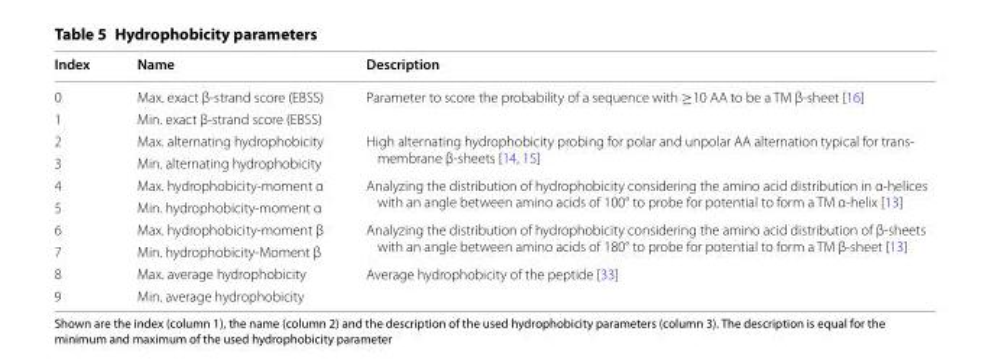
<table><thead><tr><td>Index</td><td>Name</td><td>Description</td></tr></thead><tbody><tr><td>0</td><td>Max. exact β-strand score (EBSS)</td><td rowspan="2">Parameter to score the probability of a sequence with ≥10 AA to be a TM β-sheet [16]</td></tr><tr><td>1</td><td>Min. exact β-strand score (EBSS)</td></tr><tr><td>2</td><td>Max. alternating hydrophobicity</td><td rowspan="2">High alternating hydrophobicity probing for polar and unpolar AA alternation typical for trans- membrane β-sheets [14, 15]</td></tr><tr><td>3</td><td>Min. alternating hydrophobicity</td></tr><tr><td>4</td><td>Max. hydrophobicity-moment α</td><td rowspan="2">Analyzing the distribution of hydrophobicity considering the amino acid distribution in α-helices with an angle between amino acids of 100° to probe for potential to form a TM α-helix [13]</td></tr><tr><td>5</td><td>Min. hydrophobicity-moment α</td></tr><tr><td>6</td><td>Max. hydrophobicity-moment β</td><td rowspan="2">Analyzing the distribution of hydrophobicity considering the amino acid distribution of β-sheets with an angle between amino acids of 180° to probe for potential to form a TM β-sheet [13]</td></tr><tr><td>7</td><td>Min. hydrophobicity-Moment β</td></tr><tr><td>8</td><td>Max. average hydrophobicity</td><td rowspan="2">Average hydrophobicity of the peptide [33]</td></tr><tr><td>9</td><td>Min. average hydrophobicity</td></tr></tbody></table>